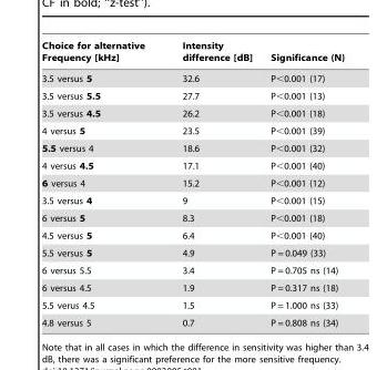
<table><thead><tr><td>Choice for alternative Frequency [kHz]</td><td>Intensity difference [dB]</td><td>Significance (N)</td></tr></thead><tbody><tr><td>3.5 versus 5</td><td>32.6</td><td>P&lt;0.001 (17)</td></tr><tr><td>3.5 versus 5.5</td><td>27.7</td><td>P&lt;0.001 (13)</td></tr><tr><td>3.5 versus 4.5</td><td>26.2</td><td>P&lt;0.001 (18)</td></tr><tr><td>4 versus 5</td><td>23.5</td><td>P&lt;0.001 (39)</td></tr><tr><td>5.5 versus 4</td><td>18.6</td><td>P&lt;0.001 (32)</td></tr><tr><td>4 versus 4.5</td><td>17.1</td><td>P&lt;0.001 (40)</td></tr><tr><td>6 versus 4</td><td>15.2</td><td>P&lt;0.001 (12)</td></tr><tr><td>3.5 versus 4</td><td>9</td><td>P&lt;0.001 (15)</td></tr><tr><td>6 versus 5</td><td>8.3</td><td>P&lt;0.001 (18)</td></tr><tr><td>4.5 versus 5</td><td>6.4</td><td>P&lt;0.001 (40)</td></tr><tr><td>5.5 versus 5</td><td>4.9</td><td>P = 0.049 (33)</td></tr><tr><td>6 versus 5.5</td><td>3.4</td><td>P = 0.705 ns (14)</td></tr><tr><td>6 versus 4.5</td><td>1.9</td><td>P = 0.317 ns (18)</td></tr><tr><td>5.5 verus 4.5</td><td>1.5</td><td>P = 1.000 ns (33)</td></tr><tr><td>4.8 versus 5</td><td>0.7</td><td>P = 0.808 ns (34)</td></tr></tbody></table>